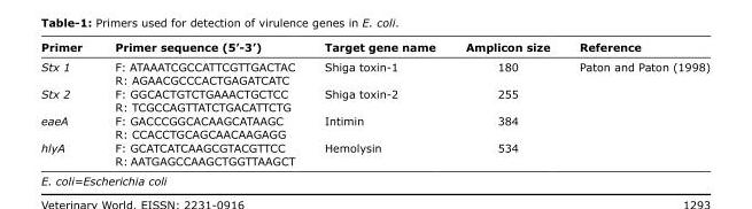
<table><thead><tr><td>Primer</td><td>Primer sequence (5’-3’)</td><td>Target gene name</td><td>Amplicon size</td><td>Reference</td></tr></thead><tbody><tr><td>Stx 1</td><td>F: ATAAATCGCCATTCGTTGACTAC R: AGAACGCCCACTGAGATCATC</td><td>Shiga toxin-1</td><td>180</td><td>Paton and Paton (1998)</td></tr><tr><td>Stx 2</td><td>F: GGCACTGTCTGAAACTGCTCC R: TCGCCAGTTATCTGACATTCTG</td><td>Shiga toxin-2</td><td>255</td><td></td></tr><tr><td>eaeA</td><td>F: GACCCGGCACAAGCATAAGC R: CCACCTGCAGCAACAAGAGG</td><td>Intimin</td><td>384</td><td></td></tr><tr><td>hlyA</td><td>F: GCATCATCAAGCGTACGTTCC R: AATGAGCCAAGCTGGTTAAGCT</td><td>Hemolysin</td><td>534</td><td></td></tr></tbody></table>